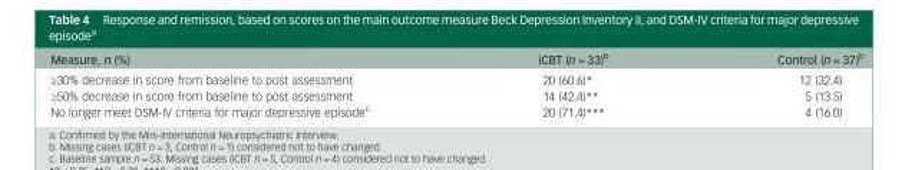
<table><thead><tr><td>Measure, n (%)</td><td>iCBT (n = 33)<sup>b</sup></td><td>Control (n = 37)<sup>b</sup></td></tr></thead><tbody><tr><td>≥30% decrease in score from baseline to post assessment</td><td>20 (60.6)*</td><td>12 (32.4)</td></tr><tr><td>≥50% decrease in score from baseline to post assessment</td><td>14 (42.4)**</td><td>5 (13.5)</td></tr><tr><td>No longer meet DSM-IV criteria for major depressive episode<sup>c</sup></td><td>20 (71.4)***</td><td>4 (16.0)</td></tr></tbody></table>